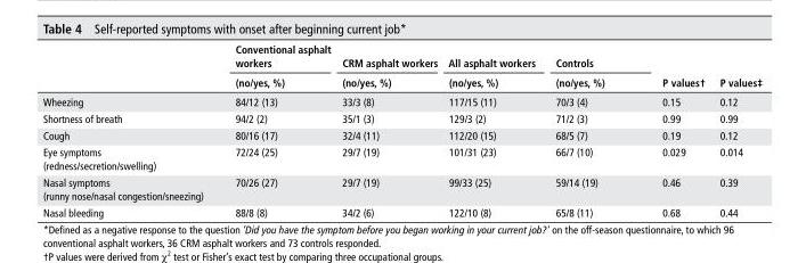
<table><thead><tr><td rowspan="2"></td><td rowspan="2">Conventional asphalt workers (no/yes, %)</td><td rowspan="2">CrM asphalt workers (no/yes, %)</td><td rowspan="2">All asphalt workers (no/yes, %)</td><td rowspan="2">Controls (no/yes, %)</td><td rowspan="2">P values†</td><td rowspan="2">P values‡</td></tr><tr></tr></thead><tbody><tr><td>Wheezing</td><td>84/12 (13)</td><td>33/3 (8)</td><td>117/15 (11)</td><td>70/3 (4)</td><td>0.15</td><td>0.12</td></tr><tr><td>Shortness of breath</td><td>94/2 (2)</td><td>35/1 (3)</td><td>129/3 (2)</td><td>71/2 (3)</td><td>0.99</td><td>0.99</td></tr><tr><td>Cough</td><td>80/16 (17)</td><td>32/4 (11)</td><td>112/20 (15)</td><td>68/5 (7)</td><td>0.19</td><td>0.12</td></tr><tr><td>Eye symptoms (redness/secretion/swelling)</td><td>72/24 (25)</td><td>29/7 (19)</td><td>101/31 (23)</td><td>66/7 (10)</td><td>0.029</td><td>0.014</td></tr><tr><td>Nasal symptoms (runny nose/nasal congestion/sneezing)</td><td>70/26 (27)</td><td>29/7 (19)</td><td>99/33 (25)</td><td>59/14 (19)</td><td>0.46</td><td>0.39</td></tr><tr><td>Nasal bleeding</td><td>88/8 (8)</td><td>34/2 (6)</td><td>122/10 (8)</td><td>65/8 (11)</td><td>0.68</td><td>0.44</td></tr></tbody></table>